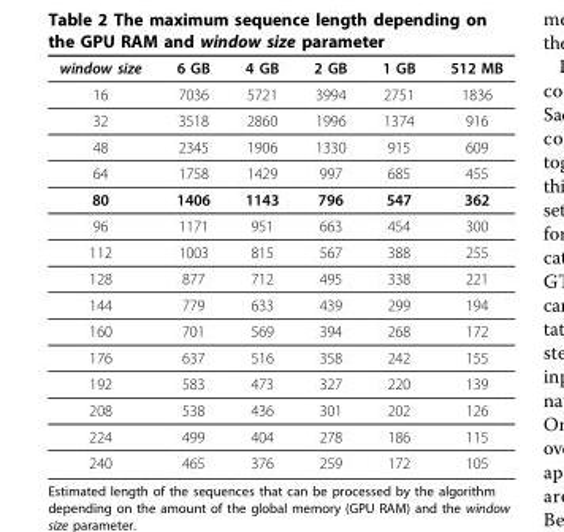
<table><thead><tr><td>window size</td><td>6 GB</td><td>4 GB</td><td>2 GB</td><td>1 GB</td><td>512 MB</td></tr></thead><tbody><tr><td>16</td><td>7036</td><td>5721</td><td>3994</td><td>2751</td><td>1836</td></tr><tr><td>32</td><td>3518</td><td>2860</td><td>1996</td><td>1374</td><td>916</td></tr><tr><td>48</td><td>2345</td><td>1906</td><td>1330</td><td>915</td><td>609</td></tr><tr><td>64</td><td>1758</td><td>1429</td><td>997</td><td>685</td><td>455</td></tr><tr><td>80</td><td>1406</td><td>1143</td><td>796</td><td>547</td><td>362</td></tr><tr><td>96</td><td>1171</td><td>951</td><td>663</td><td>454</td><td>300</td></tr><tr><td>112</td><td>1003</td><td>815</td><td>567</td><td>388</td><td>255</td></tr><tr><td>128</td><td>877</td><td>712</td><td>495</td><td>338</td><td>221</td></tr><tr><td>144</td><td>779</td><td>633</td><td>439</td><td>299</td><td>194</td></tr><tr><td>160</td><td>701</td><td>569</td><td>394</td><td>268</td><td>172</td></tr><tr><td>176</td><td>637</td><td>516</td><td>358</td><td>242</td><td>155</td></tr><tr><td>192</td><td>583</td><td>473</td><td>327</td><td>220</td><td>139</td></tr><tr><td>208</td><td>538</td><td>436</td><td>301</td><td>202</td><td>126</td></tr><tr><td>224</td><td>499</td><td>404</td><td>278</td><td>186</td><td>115</td></tr><tr><td>240</td><td>465</td><td>376</td><td>259</td><td>172</td><td>105</td></tr></tbody></table>